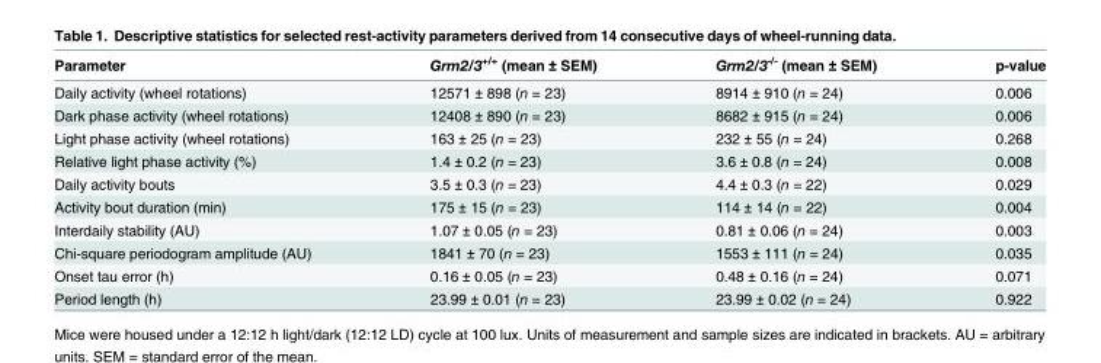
<table><thead><tr><td>Parameter</td><td>Grm2/3<sup>+/+</sup> (mean ± SEM)</td><td>Grm2/3<sup>-/-</sup> (mean ± SEM)</td><td>p-value</td></tr></thead><tbody><tr><td>Daily activity (wheel rotations)</td><td>12571 ± 898 (n = 23)</td><td>8914 ± 910 (n = 24)</td><td>0.006</td></tr><tr><td>Dark phase activity (wheel rotations)</td><td>12408 ± 890 (n = 23)</td><td>8682 ± 915 (n = 24)</td><td>0.006</td></tr><tr><td>Light phase activity (wheel rotations)</td><td>163 ± 25 (n = 23)</td><td>232 ± 55 (n = 24)</td><td>0.268</td></tr><tr><td>Relative light phase activity (%)</td><td>1.4 ± 0.2 (n = 23)</td><td>3.6 ± 0.8 (n = 24)</td><td>0.008</td></tr><tr><td>Daily activity bouts</td><td>3.5 ± 0.3 (n = 23)</td><td>4.4 ± 0.3 (n = 22)</td><td>0.029</td></tr><tr><td>Activity bout duration (min)</td><td>175 ± 15 (n = 23)</td><td>114 ± 14 (n = 22)</td><td>0.004</td></tr><tr><td>Interdaily stability (AU)</td><td>1.07 ± 0.05 (n = 23)</td><td>0.81 ± 0.06 (n = 24)</td><td>0.003</td></tr><tr><td>Chi-square periodogram amplitude (AU)</td><td>1841 ± 70 (n = 23)</td><td>1553 ± 111 (n = 24)</td><td>0.035</td></tr><tr><td>Onset tau error (h)</td><td>0.16 ± 0.05 (n = 23)</td><td>0.48 ± 0.16 (n = 24)</td><td>0.071</td></tr><tr><td>Period length (h)</td><td>23.99 ± 0.01 (n = 23)</td><td>23.99 ± 0.02 (n = 24)</td><td>0.922</td></tr></tbody></table>